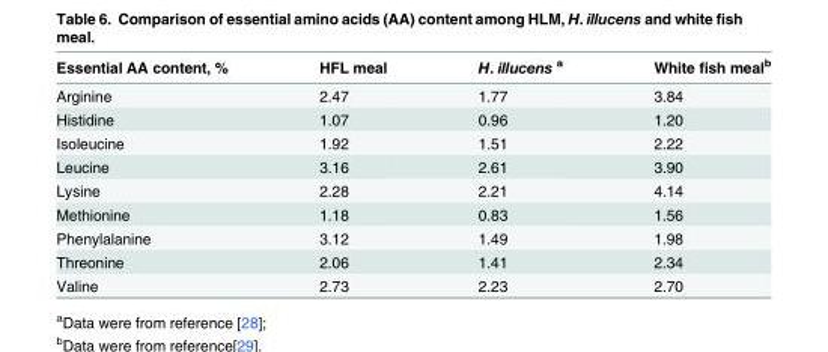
<table><thead><tr><td>Essential AA content, %</td><td>HFL meal</td><td>H. illucens <sup>a</sup></td><td>White fish meal<sup>b</sup></td></tr></thead><tbody><tr><td>Arginine</td><td>2.47</td><td>1.77</td><td>3.84</td></tr><tr><td>Histidine</td><td>1.07</td><td>0.96</td><td>1.20</td></tr><tr><td>Isoleucine</td><td>1.92</td><td>1.51</td><td>2.22</td></tr><tr><td>Leucine</td><td>3.16</td><td>2.61</td><td>3.90</td></tr><tr><td>Lysine</td><td>2.28</td><td>2.21</td><td>4.14</td></tr><tr><td>Methionine</td><td>1.18</td><td>0.83</td><td>1.56</td></tr><tr><td>Phenylalanine</td><td>3.12</td><td>1.49</td><td>1.98</td></tr><tr><td>Threonine</td><td>2.06</td><td>1.41</td><td>2.34</td></tr><tr><td>Valine</td><td>2.73</td><td>2.23</td><td>2.70</td></tr></tbody></table>